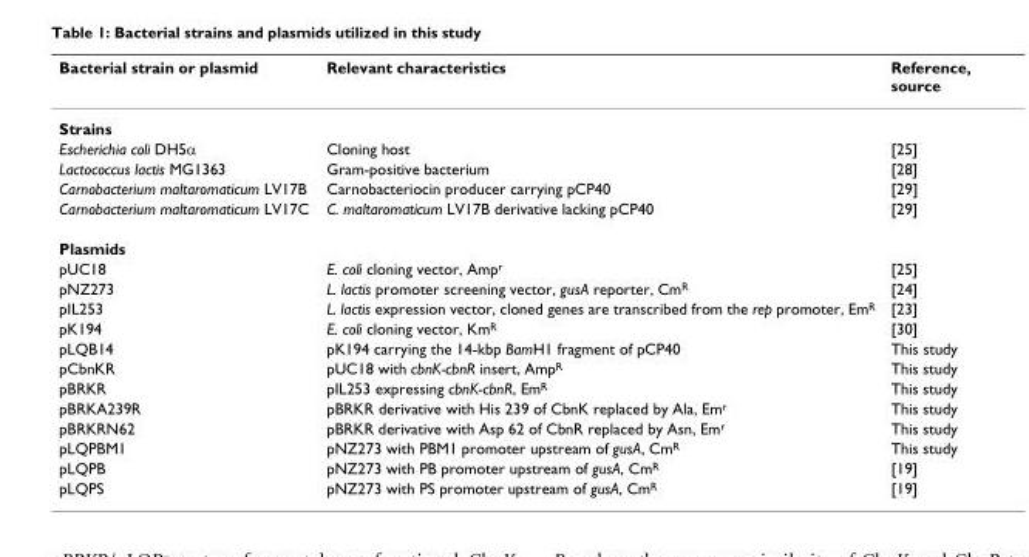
<table><thead><tr><td>Bacterial strain or plasmid</td><td>Relevant characteristics</td><td>Reference, source</td></tr></thead><tbody><tr><td colspan="3">Strains</td></tr><tr><td>Escherichia coli DH5α</td><td>Cloning host</td><td>[25]</td></tr><tr><td>Lactococcus lactis MG1363</td><td>Gram-positive bacterium</td><td>[28]</td></tr><tr><td>Carnobacterium maltaromaticum LV17B</td><td>Carnobacteriocin producer carrying pCP40</td><td>[29]</td></tr><tr><td>Carnobacterium maltaromaticum LV17C</td><td>C. maltaromaticum LV17B derivative lacking pCP40</td><td>[29]</td></tr><tr><td colspan="3">Plasmids</td></tr><tr><td>pUC18</td><td>E. coli cloning vector, Ampr</td><td>[25]</td></tr><tr><td>pNZ273</td><td>L. lactis promoter screening vector, gusA reporter, CmR</td><td>[24]</td></tr><tr><td>pIL253</td><td>L. lactis expression vector, cloned genes are transcribed from the rep promoter, EmR</td><td>[23]</td></tr><tr><td>pK194</td><td>E. coli cloning vector, KmR</td><td>[30]</td></tr><tr><td>pLQB14</td><td>pK194 carrying the 14-kbp BamH1 fragment of pCP40</td><td>This study</td></tr><tr><td>pCbnKR</td><td>pUC18 with cbnK-cbnR insert, AmpR</td><td>This study</td></tr><tr><td>pBRKR</td><td>pIL253 expressing cbnK-cbnR, EmR</td><td>This study</td></tr><tr><td>pBRKA239R</td><td>pBRKR derivative with His 239 of CbnK replaced by Ala, Emr</td><td>This study</td></tr><tr><td>pBRKRN62</td><td>pBRKR derivative with Asp 62 of CbnR replaced by Asn, Emr</td><td>This study</td></tr><tr><td>pLQPBM1</td><td>pNZ273 with PBM1 promoter upstream of gusA, CmR</td><td>This study</td></tr><tr><td>pLQPB</td><td>pNZ273 with PB promoter upstream of gusA, CmR</td><td>[19]</td></tr><tr><td>pLQPS</td><td>pNZ273 with PS promoter upstream of gusA, CmR</td><td>[19]</td></tr></tbody></table>